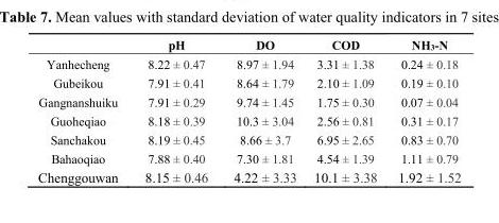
<table><thead><tr><td></td><td>pH</td><td>DO</td><td>COD</td><td>NH<sub>3</sub>-N</td></tr></thead><tbody><tr><td>Yanhecheng</td><td>8.22 ± 0.47</td><td>8.97 ± 1.94</td><td>3.31 ± 1.38</td><td>0.24 ± 0.18</td></tr><tr><td>Gubeikou</td><td>7.91 ± 0.41</td><td>8.64 ± 1.79</td><td>2.10 ± 1.09</td><td>0.19 ± 0.10</td></tr><tr><td>Gangnanshuiku</td><td>7.91 ± 0.29</td><td>9.74 ± 1.45</td><td>1.75 ± 0.30</td><td>0.07 ± 0.04</td></tr><tr><td>Guoheqiao</td><td>8.18 ± 0.39</td><td>10.3 ± 3.04</td><td>2.56 ± 0.81</td><td>0.31 ± 0.17</td></tr><tr><td>Sanchakou</td><td>8.19 ± 0.45</td><td>8.66 ± 3.7</td><td>6.95 ± 2.65</td><td>0.83 ± 0.70</td></tr><tr><td>Bahaoqiao</td><td>7.88 ± 0.40</td><td>7.30 ± 1.81</td><td>4.54 ± 1.39</td><td>1.11 ± 0.79</td></tr><tr><td>Chenggouwan</td><td>8.15 ± 0.46</td><td>4.22 ± 3.33</td><td>10.1 ± 3.38</td><td>1.92 ± 1.52</td></tr></tbody></table>